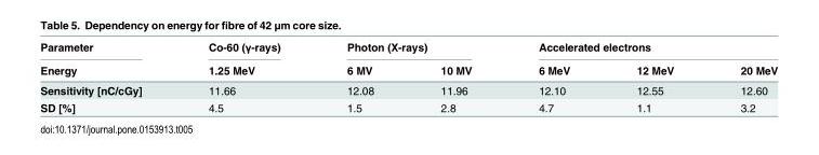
<table><thead><tr><td rowspan="2">Parameter Energy</td><td rowspan="2">Co-60 (γ-rays) 1.25 MeV</td><td colspan="2">Photon (X-rays)</td><td colspan="3">Accelerated electrons</td></tr><tr><td>6 MV</td><td>10 MV</td><td>6 MeV</td><td>12 MeV</td><td>20 MeV</td></tr></thead><tbody><tr><td>Sensitivity [nC/cGy]</td><td>11.66</td><td>12.08</td><td>11.96</td><td>12.10</td><td>12.55</td><td>12.60</td></tr><tr><td>SD [%]</td><td>4.5</td><td>1.5</td><td>2.8</td><td>4.7</td><td>1.1</td><td>3.2</td></tr></tbody></table>